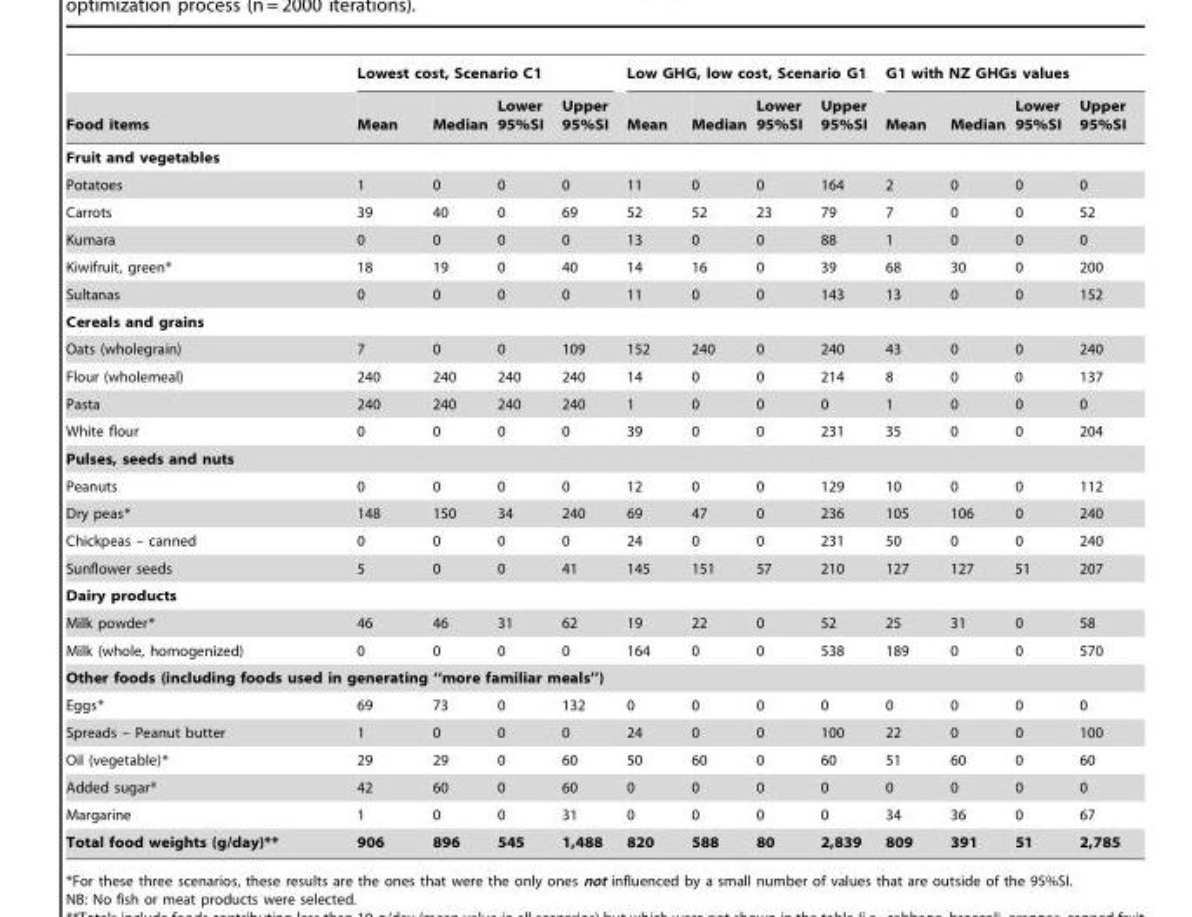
<table><thead><tr><td rowspan="2">Food items</td><td colspan="4">Lowest cost, Scenario C1</td><td colspan="4">Low GHG, low cost, Scenario G1</td><td colspan="4">G1 with NZ GHGs values</td></tr><tr><td>Mean</td><td>Median</td><td>Lower 95%SI</td><td>Upper 95%SI</td><td>Mean</td><td>Median</td><td>Lower 95%SI</td><td>Upper 95%SI</td><td>Mean</td><td>Median</td><td>Lower 95%SI</td><td>Upper 95%SI</td></tr></thead><tbody><tr><td colspan="13">Fruit and vegetables</td></tr><tr><td>Potatoes</td><td>1</td><td>0</td><td>0</td><td>0</td><td>11</td><td>0</td><td>0</td><td>164</td><td>2</td><td>0</td><td>0</td><td>0</td></tr><tr><td>Carrots</td><td>39</td><td>40</td><td>0</td><td>69</td><td>52</td><td>52</td><td>23</td><td>79</td><td>7</td><td>0</td><td>0</td><td>52</td></tr><tr><td>Kumara</td><td>0</td><td>0</td><td>0</td><td>0</td><td>13</td><td>0</td><td>0</td><td>88</td><td>1</td><td>0</td><td>0</td><td>0</td></tr><tr><td>Kiwifruit, green*</td><td>18</td><td>19</td><td>0</td><td>40</td><td>14</td><td>16</td><td>0</td><td>39</td><td>68</td><td>30</td><td>0</td><td>200</td></tr><tr><td>Sultanas</td><td>0</td><td>0</td><td>0</td><td>0</td><td>11</td><td>0</td><td>0</td><td>143</td><td>13</td><td>0</td><td>0</td><td>152</td></tr><tr><td colspan="13">Cereals and grains</td></tr><tr><td>Oats (wholegrain)</td><td>7</td><td>0</td><td>0</td><td>109</td><td>152</td><td>240</td><td>0</td><td>240</td><td>43</td><td>0</td><td>0</td><td>240</td></tr><tr><td>Flour (wholemeal)</td><td>240</td><td>240</td><td>240</td><td>240</td><td>14</td><td>0</td><td>0</td><td>214</td><td>8</td><td>0</td><td>0</td><td>137</td></tr><tr><td>Pasta</td><td>240</td><td>240</td><td>240</td><td>240</td><td>1</td><td>0</td><td>0</td><td>0</td><td>1</td><td>0</td><td>0</td><td>0</td></tr><tr><td>White flour</td><td>0</td><td>0</td><td>0</td><td>0</td><td>39</td><td>0</td><td>0</td><td>231</td><td>35</td><td>0</td><td>0</td><td>204</td></tr><tr><td colspan="13">Pulses, seeds and nuts</td></tr><tr><td>Peanuts</td><td>0</td><td>0</td><td>0</td><td>0</td><td>12</td><td>0</td><td>0</td><td>129</td><td>10</td><td>0</td><td>0</td><td>112</td></tr><tr><td>Dry peas*</td><td>148</td><td>150</td><td>34</td><td>240</td><td>69</td><td>47</td><td>0</td><td>236</td><td>105</td><td>106</td><td>0</td><td>240</td></tr><tr><td>Chickpeas – canned</td><td>0</td><td>0</td><td>0</td><td>0</td><td>24</td><td>0</td><td>0</td><td>231</td><td>50</td><td>0</td><td>0</td><td>240</td></tr><tr><td>Sunflower seeds</td><td>5</td><td>0</td><td>0</td><td>41</td><td>145</td><td>151</td><td>57</td><td>210</td><td>127</td><td>127</td><td>51</td><td>207</td></tr><tr><td colspan="13">Dairy products</td></tr><tr><td>Milk powder*</td><td>46</td><td>46</td><td>31</td><td>62</td><td>19</td><td>22</td><td>0</td><td>52</td><td>25</td><td>31</td><td>0</td><td>58</td></tr><tr><td>Milk (whole, homogenized)</td><td>0</td><td>0</td><td>0</td><td>0</td><td>164</td><td>0</td><td>0</td><td>538</td><td>189</td><td>0</td><td>0</td><td>570</td></tr><tr><td colspan="13">Other foods (including foods used in generating ‘‘more familiar meals’’)</td></tr><tr><td>Eggs*</td><td>69</td><td>73</td><td>0</td><td>132</td><td>0</td><td>0</td><td>0</td><td>0</td><td>0</td><td>0</td><td>0</td><td>0</td></tr><tr><td>Spreads – Peanut butter</td><td>1</td><td>0</td><td>0</td><td>0</td><td>24</td><td>0</td><td>0</td><td>100</td><td>22</td><td>0</td><td>0</td><td>100</td></tr><tr><td>Oil (vegetable)*</td><td>29</td><td>29</td><td>0</td><td>60</td><td>50</td><td>60</td><td>0</td><td>60</td><td>51</td><td>60</td><td>0</td><td>60</td></tr><tr><td>Added sugar*</td><td>42</td><td>60</td><td>0</td><td>60</td><td>0</td><td>0</td><td>0</td><td>0</td><td>0</td><td>0</td><td>0</td><td>0</td></tr><tr><td>Margarine</td><td>1</td><td>0</td><td>0</td><td>31</td><td>0</td><td>0</td><td>0</td><td>0</td><td>34</td><td>36</td><td>0</td><td>67</td></tr><tr><td>Total food weights (g/day)**</td><td>906</td><td>896</td><td>545</td><td>1,488</td><td>820</td><td>588</td><td>80</td><td>2,839</td><td>809</td><td>391</td><td>51</td><td>2,785</td></tr></tbody></table>